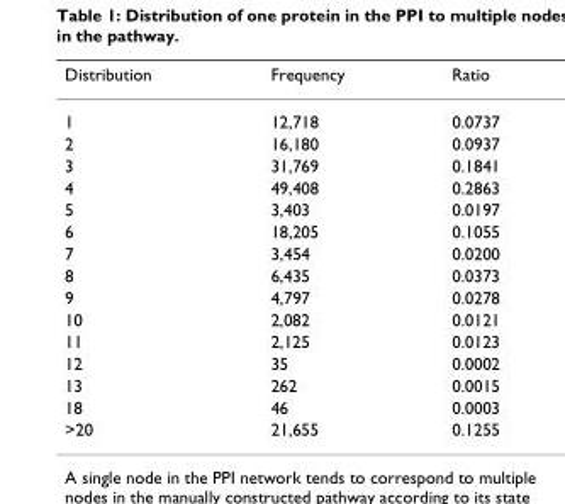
<table><thead><tr><td>Distribution</td><td>Frequency</td><td>Ratio</td></tr></thead><tbody><tr><td>1</td><td>12,718</td><td>0.0737</td></tr><tr><td>2</td><td>16,180</td><td>0.0937</td></tr><tr><td>3</td><td>31,769</td><td>0.1841</td></tr><tr><td>4</td><td>49,408</td><td>0.2863</td></tr><tr><td>5</td><td>3,403</td><td>0.0197</td></tr><tr><td>6</td><td>18,205</td><td>0.1055</td></tr><tr><td>7</td><td>3,454</td><td>0.0200</td></tr><tr><td>8</td><td>6,435</td><td>0.0373</td></tr><tr><td>9</td><td>4,797</td><td>0.0278</td></tr><tr><td>10</td><td>2,082</td><td>0.0121</td></tr><tr><td>11</td><td>2,125</td><td>0.0123</td></tr><tr><td>12</td><td>35</td><td>0.0002</td></tr><tr><td>13</td><td>262</td><td>0.0015</td></tr><tr><td>18</td><td>46</td><td>0.0003</td></tr><tr><td>&gt;20</td><td>21,655</td><td>0.1255</td></tr></tbody></table>